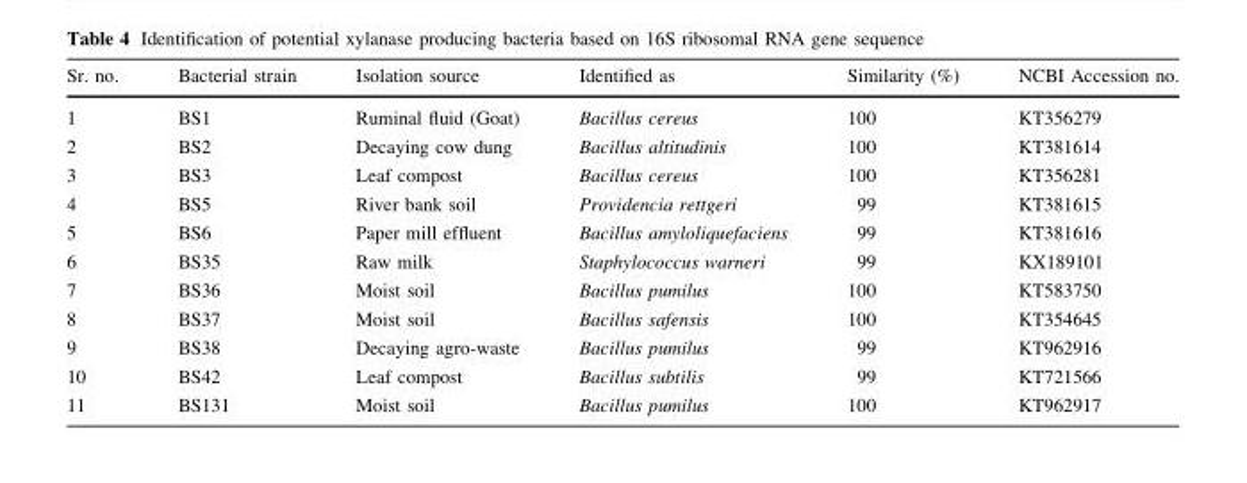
<table><thead><tr><td>Sr. no.</td><td>Bacterial strain</td><td>Isolation source</td><td>Identified as</td><td>Similarity (%)</td><td>NCBI Accession no.</td></tr></thead><tbody><tr><td>1</td><td>BS1</td><td>Ruminal fluid (Goat)</td><td>Bacillus cereus</td><td>100</td><td>KT356279</td></tr><tr><td>2</td><td>BS2</td><td>Decaying cow dung</td><td>Bacillus altitudinis</td><td>100</td><td>KT381614</td></tr><tr><td>3</td><td>BS3</td><td>Leaf compost</td><td>Bacillus cereus</td><td>100</td><td>KT356281</td></tr><tr><td>4</td><td>BS5</td><td>River bank soil</td><td>Providencia rettgeri</td><td>99</td><td>KT381615</td></tr><tr><td>5</td><td>BS6</td><td>Paper mill effluent</td><td>Bacillus amyloliquefaciens</td><td>99</td><td>KT381616</td></tr><tr><td>6</td><td>BS35</td><td>Raw milk</td><td>Staphylococcus warneri</td><td>99</td><td>KX189101</td></tr><tr><td>7</td><td>BS36</td><td>Moist soil</td><td>Bacillus pumilus</td><td>100</td><td>KT583750</td></tr><tr><td>8</td><td>BS37</td><td>Moist soil</td><td>Bacillus safensis</td><td>100</td><td>KT354645</td></tr><tr><td>9</td><td>BS38</td><td>Decaying agro-waste</td><td>Bacillus pumilus</td><td>99</td><td>KT962916</td></tr><tr><td>10</td><td>BS42</td><td>Leaf compost</td><td>Bacillus subtilis</td><td>99</td><td>KT721566</td></tr><tr><td>11</td><td>BS131</td><td>Moist soil</td><td>Bacillus pumilus</td><td>100</td><td>KT962917</td></tr></tbody></table>